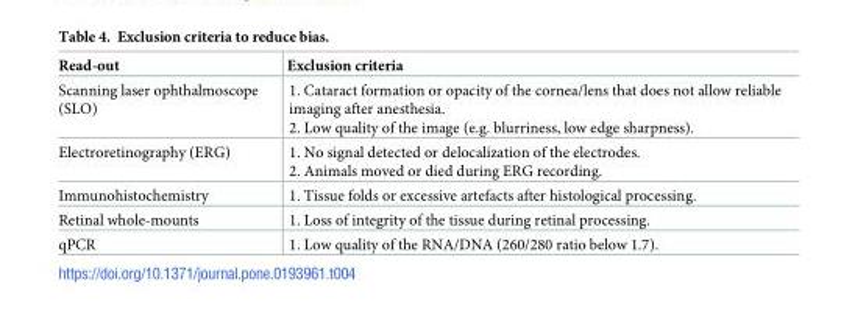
<table><thead><tr><td>Read-out</td><td>Exclusion criteria</td></tr></thead><tbody><tr><td>Scanning laser ophthalmoscope (SLO)</td><td>1. Cataract formation or opacity of the cornea/lens that does not allow reliable imaging after anesthesia. 2. Low quality of the image (e.g. blurriness, low edge sharpness).</td></tr><tr><td>Electroretinography (ERG)</td><td>1. No signal detected or delocalization of the electrodes. 2. Animals moved or died during ERG recording.</td></tr><tr><td>Immunohistochemistry</td><td>1. Tissue folds or excessive artefacts after histological processing.</td></tr><tr><td>Retinal whole-mounts</td><td>1. Loss of integrity of the tissue during retinal processing.</td></tr><tr><td>qPCR</td><td>1. Low quality of the RNA/DNA (260/280 ratio below 1.7).</td></tr></tbody></table>